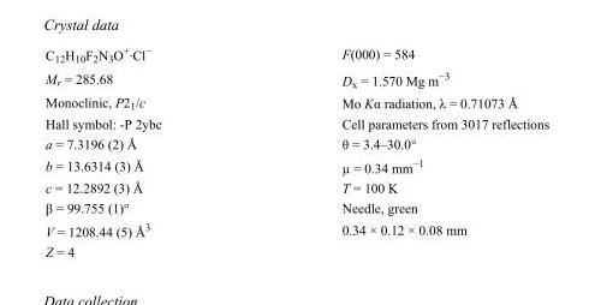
<table><tbody><tr><td>C<sub>12</sub>H<sub>10</sub>F<sub>2</sub>N<sub>3</sub>O<sup>+</sup>·Cl<sup>−</sup></td><td>F(000) = 584</td></tr><tr><td>M<sub>r</sub> = 285.68</td><td>D<sub>x</sub> = 1.570 Mg m<sup>−3</sup></td></tr><tr><td>Monoclinic, P2<sub>1</sub>/c</td><td>Mo Kα radiation, λ = 0.71073 Å</td></tr><tr><td>Hall symbol: -P 2ybc</td><td>Cell parameters from 3017 reflections</td></tr><tr><td>a = 7.3196 (2) Å</td><td>θ = 3.4–30.0°</td></tr><tr><td>b = 13.6314 (3) Å</td><td>µ = 0.34 mm<sup>−1</sup></td></tr><tr><td>c = 12.2892 (3) Å</td><td>T = 100 K</td></tr><tr><td>β = 99.755 (1)°</td><td>Needle, green</td></tr><tr><td>V = 1208.44 (5) Å<sup>3</sup></td><td>0.34 × 0.12 × 0.08 mm</td></tr><tr><td>Z = 4</td><td></td></tr></tbody></table>